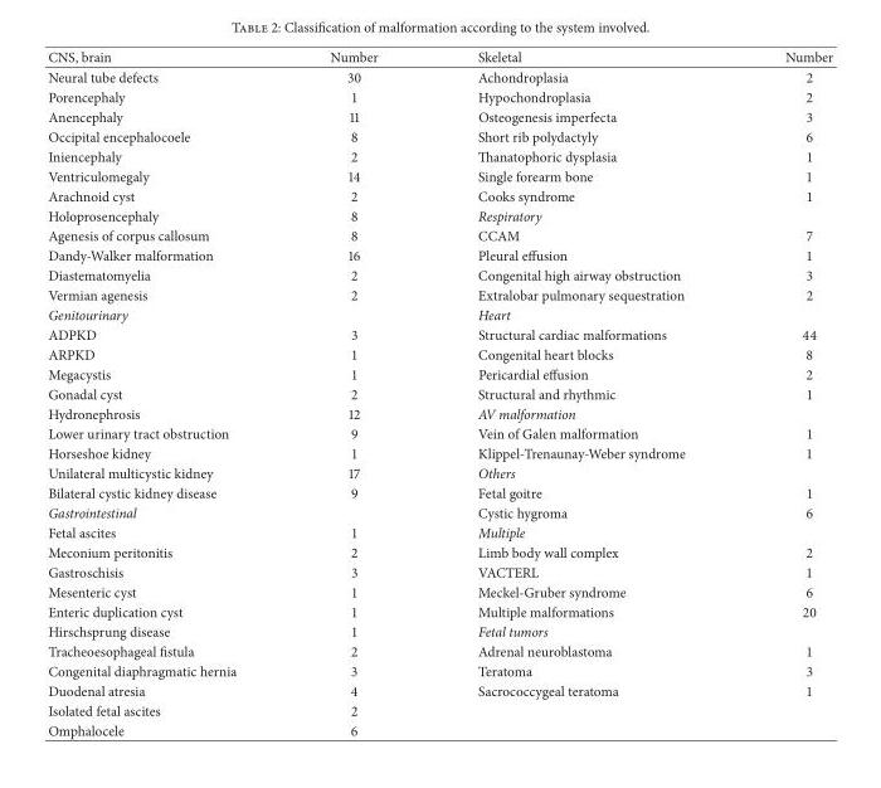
<table><thead><tr><td>CNS, brain</td><td>Number</td><td>Skeletal</td><td>Number</td></tr></thead><tbody><tr><td>Neural tube defects</td><td>30</td><td>Achondroplasia</td><td>2</td></tr><tr><td>Porencephaly</td><td>1</td><td>Hypochondroplasia</td><td>2</td></tr><tr><td>Anencephaly</td><td>11</td><td>Osteogenesis imperfecta</td><td>3</td></tr><tr><td>Occipital encephalocoele</td><td>8</td><td>Short rib polydactyly</td><td>6</td></tr><tr><td>Iniencephaly</td><td>2</td><td>Thanatophoric dysplasia</td><td>1</td></tr><tr><td>Ventriculomegaly</td><td>14</td><td>Single forearm bone</td><td>1</td></tr><tr><td>Arachnoid cyst</td><td>2</td><td>Cooks syndrome</td><td>1</td></tr><tr><td>Holoprosencephaly</td><td>8</td><td>Respiratory</td><td></td></tr><tr><td>Agenesis of corpus callosum</td><td>8</td><td>CCAM</td><td>7</td></tr><tr><td>Dandy-Walker malformation</td><td>16</td><td>Pleural effusion</td><td>1</td></tr><tr><td>Diastematomyelia</td><td>2</td><td>Congenital high airway obstruction</td><td>3</td></tr><tr><td>Vermian agenesis</td><td>2</td><td>Extralobar pulmonary sequestration</td><td>2</td></tr><tr><td>Genitourinary</td><td></td><td>Heart</td><td></td></tr><tr><td>ADPKD</td><td>3</td><td>Structural cardiac malformations</td><td>44</td></tr><tr><td>ARPKD</td><td>1</td><td>Congenital heart blocks</td><td>8</td></tr><tr><td>Megacystis</td><td>1</td><td>Pericardial effusion</td><td>2</td></tr><tr><td>Gonadal cyst</td><td>2</td><td>Structural and rhythmic</td><td>1</td></tr><tr><td>Hydronephrosis</td><td>12</td><td>AV malformation</td><td></td></tr><tr><td>Lower urinary tract obstruction</td><td>9</td><td>Vein of Galen malformation</td><td>1</td></tr><tr><td>Horseshoe kidney</td><td>1</td><td>Klippel-Trenaunay-Weber syndrome</td><td>1</td></tr><tr><td>Unilateral multicystic kidney</td><td>17</td><td>Others</td><td></td></tr><tr><td>Bilateral cystic kidney disease</td><td>9</td><td>Fetal goitre</td><td>1</td></tr><tr><td>Gastrointestinal</td><td></td><td>Cystic hygroma</td><td>6</td></tr><tr><td>Fetal ascites</td><td>1</td><td>Multiple</td><td></td></tr><tr><td>Meconium peritonitis</td><td>2</td><td>Limb body wall complex</td><td>2</td></tr><tr><td>Gastroschisis</td><td>3</td><td>VACTERL</td><td>1</td></tr><tr><td>Mesenteric cyst</td><td>1</td><td>Meckel-Gruber syndrome</td><td>6</td></tr><tr><td>Enteric duplication cyst</td><td>1</td><td>Multiple malformations</td><td>20</td></tr><tr><td>Hirschsprung disease</td><td>1</td><td>Fetal tumors</td><td></td></tr><tr><td>Tracheoesophageal fistula</td><td>2</td><td>Adrenal neuroblastoma</td><td>1</td></tr><tr><td>Congenital diaphragmatic hernia</td><td>3</td><td>Teratoma</td><td>3</td></tr><tr><td>Duodenal atresia</td><td>4</td><td>Sacrococcygeal teratoma</td><td>1</td></tr><tr><td>Isolated fetal ascites</td><td>2</td><td></td><td></td></tr><tr><td>Omphalocele</td><td>6</td><td></td><td></td></tr></tbody></table>